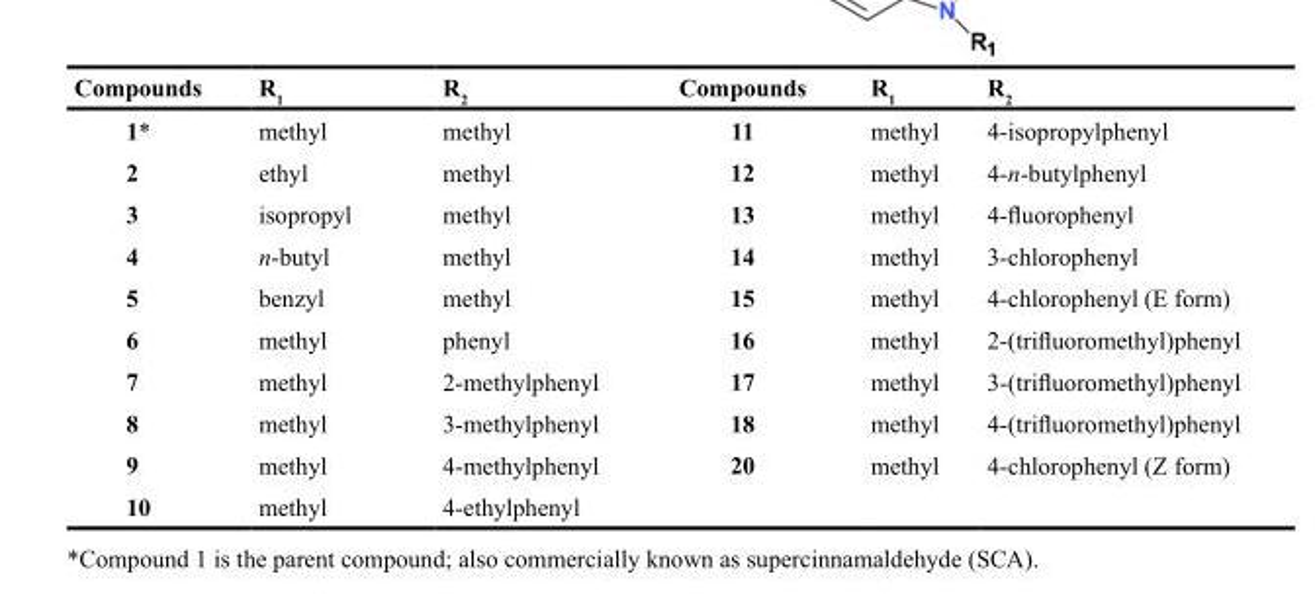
<table><thead><tr><td>Compounds</td><td>R<sub>1</sub></td><td>R<sub>2</sub></td><td>Compounds</td><td>R<sub>1</sub></td><td>R<sub>2</sub></td></tr></thead><tbody><tr><td>1*</td><td>methyl</td><td>methyl</td><td>11</td><td>methyl</td><td>4-isopropylphenyl</td></tr><tr><td>2</td><td>ethyl</td><td>methyl</td><td>12</td><td>methyl</td><td>4-n-butylphenyl</td></tr><tr><td>3</td><td>isopropyl</td><td>methyl</td><td>13</td><td>methyl</td><td>4-fluorophenyl</td></tr><tr><td>4</td><td>n-butyl</td><td>methyl</td><td>14</td><td>methyl</td><td>3-chlorophenyl</td></tr><tr><td>5</td><td>benzyl</td><td>methyl</td><td>15</td><td>methyl</td><td>4-chlorophenyl (E form)</td></tr><tr><td>6</td><td>methyl</td><td>phenyl</td><td>16</td><td>methyl</td><td>2-(trifluoromethyl)phenyl</td></tr><tr><td>7</td><td>methyl</td><td>2-methylphenyl</td><td>17</td><td>methyl</td><td>3-(trifluoromethyl)phenyl</td></tr><tr><td>8</td><td>methyl</td><td>3-methylphenyl</td><td>18</td><td>methyl</td><td>4-(trifluoromethyl)phenyl</td></tr><tr><td>9</td><td>methyl</td><td>4-methylphenyl</td><td>20</td><td>methyl</td><td>4-chlorophenyl (Z form)</td></tr><tr><td>10</td><td>methyl</td><td>4-ethylphenyl</td><td></td><td></td><td></td></tr></tbody></table>